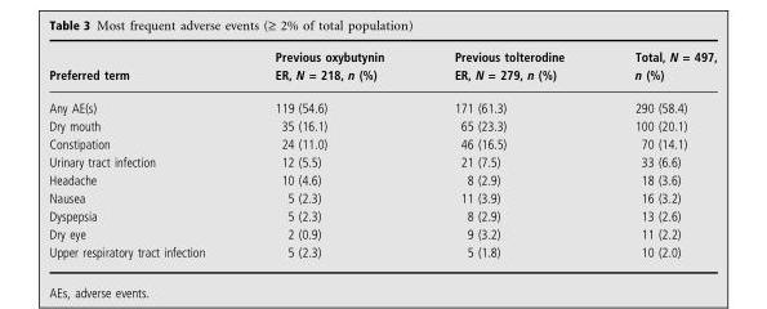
<table><thead><tr><td>Preferred term</td><td>Previous oxybutynin ER, N = 218, n (%)</td><td>Previous tolterodine ER, N = 279, n (%)</td><td>Total, N = 497, n (%)</td></tr></thead><tbody><tr><td>Any AE(s)</td><td>119 (54.6)</td><td>171 (61.3)</td><td>290 (58.4)</td></tr><tr><td>Dry mouth</td><td>35 (16.1)</td><td>65 (23.3)</td><td>100 (20.1)</td></tr><tr><td>Constipation</td><td>24 (11.0)</td><td>46 (16.5)</td><td>70 (14.1)</td></tr><tr><td>Urinary tract infection</td><td>12 (5.5)</td><td>21 (7.5)</td><td>33 (6.6)</td></tr><tr><td>Headache</td><td>10 (4.6)</td><td>8 (2.9)</td><td>18 (3.6)</td></tr><tr><td>Nausea</td><td>5 (2.3)</td><td>11 (3.9)</td><td>16 (3.2)</td></tr><tr><td>Dyspepsia</td><td>5 (2.3)</td><td>8 (2.9)</td><td>13 (2.6)</td></tr><tr><td>Dry eye</td><td>2 (0.9)</td><td>9 (3.2)</td><td>11 (2.2)</td></tr><tr><td>Upper respiratory tract infection</td><td>5 (2.3)</td><td>5 (1.8)</td><td>10 (2.0)</td></tr></tbody></table>